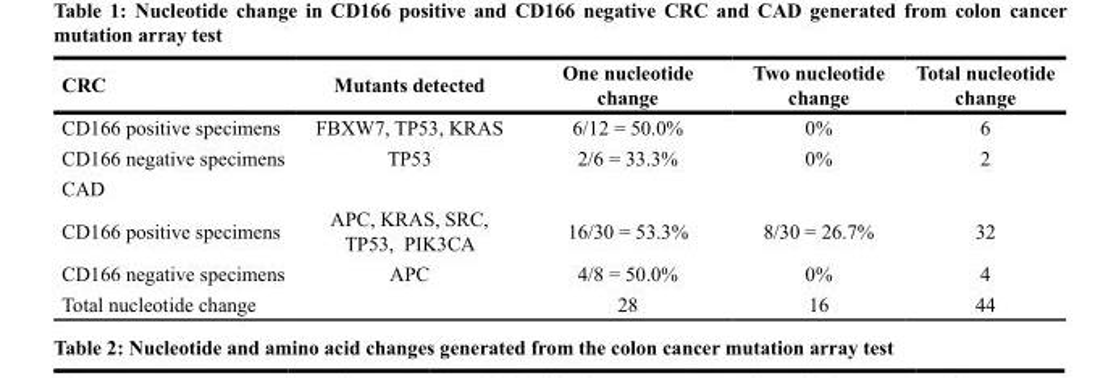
<table><thead><tr><td>CRC</td><td>Mutants detected</td><td>One nucleotide change</td><td>Two nucleotide change</td><td>Total nucleotide change</td></tr></thead><tbody><tr><td>CD166 positive specimens</td><td>FBXW7, TP53, KRAS</td><td>6/12 = 50.0%</td><td>0%</td><td>6</td></tr><tr><td>CD166 negative specimens</td><td>TP53</td><td>2/6 = 33.3%</td><td>0%</td><td>2</td></tr><tr><td colspan="5">CAD</td></tr><tr><td>CD166 positive specimens</td><td>APC, KRAS, SRC, TP53, PIK3CA</td><td>16/30 = 53.3%</td><td>8/30 = 26.7%</td><td>32</td></tr><tr><td>CD166 negative specimens</td><td>APC</td><td>4/8 = 50.0%</td><td>0%</td><td>4</td></tr><tr><td>Total nucleotide change</td><td></td><td>28</td><td>16</td><td>44</td></tr></tbody></table>